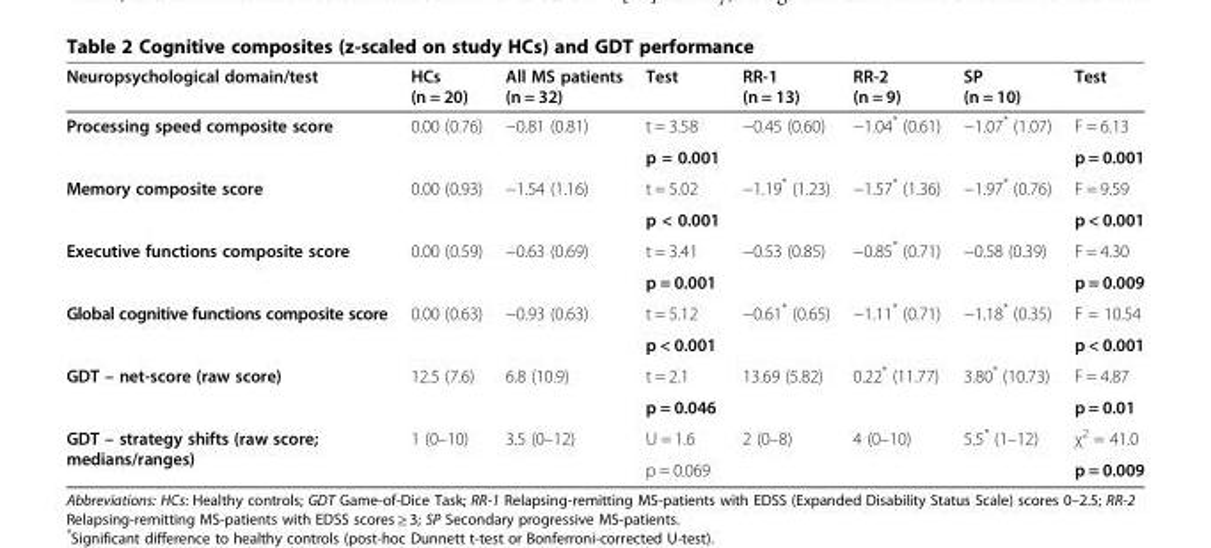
<table><thead><tr><td>Neuropsychological domain/test</td><td>HCs (n = 20)</td><td>All MS patients (n = 32)</td><td>Test</td><td>RR-1 (n = 13)</td><td>RR-2 (n = 9)</td><td>SP (n = 10)</td><td>Test</td></tr></thead><tbody><tr><td rowspan="2">Processing speed composite score</td><td rowspan="2">0.00 (0.76)</td><td rowspan="2">−0.81 (0.81)</td><td>t = 3.58</td><td rowspan="2">−0.45 (0.60)</td><td rowspan="2">−1.04* (0.61)</td><td rowspan="2">−1.07* (1.07)</td><td>F = 6.13</td></tr><tr><td>p = 0.001</td><td>p = 0.001</td></tr><tr><td rowspan="2">Memory composite score</td><td rowspan="2">0.00 (0.93)</td><td rowspan="2">−1.54 (1.16)</td><td>t = 5.02</td><td rowspan="2">−1.19* (1.23)</td><td rowspan="2">−1.57* (1.36)</td><td rowspan="2">−1.97* (0.76)</td><td>F = 9.59</td></tr><tr><td>p &lt; 0.001</td><td>p &lt; 0.001</td></tr><tr><td rowspan="2">Executive functions composite score</td><td rowspan="2">0.00 (0.59)</td><td rowspan="2">−0.63 (0.69)</td><td>t = 3.41</td><td rowspan="2">−0.53 (0.85)</td><td rowspan="2">−0.85* (0.71)</td><td rowspan="2">−0.58 (0.39)</td><td>F = 4.30</td></tr><tr><td>p = 0.001</td><td>p = 0.009</td></tr><tr><td rowspan="2">Global cognitive functions composite score</td><td rowspan="2">0.00 (0.63)</td><td rowspan="2">−0.93 (0.63)</td><td>t = 5.12</td><td rowspan="2">−0.61* (0.65)</td><td rowspan="2">−1.11* (0.71)</td><td rowspan="2">−1.18* (0.35)</td><td>F = 10.54</td></tr><tr><td>p &lt; 0.001</td><td>p &lt; 0.001</td></tr><tr><td rowspan="2">GDT – net-score (raw score)</td><td rowspan="2">12.5 (7.6)</td><td rowspan="2">6.8 (10.9)</td><td>t = 2.1</td><td rowspan="2">13.69 (5.82)</td><td rowspan="2">0.22* (11.77)</td><td rowspan="2">3.80* (10.73)</td><td>F = 4.87</td></tr><tr><td>p = 0.046</td><td>p = 0.01</td></tr><tr><td rowspan="2">GDT – strategy shifts (raw score; medians/ranges)</td><td rowspan="2">1 (0–10)</td><td rowspan="2">3.5 (0–12)</td><td>U = 1.6</td><td rowspan="2">2 (0–8)</td><td rowspan="2">4 (0–10)</td><td rowspan="2">5.5* (1–12)</td><td>χ<sup>2</sup> = 41.0</td></tr><tr><td>p = 0.069</td><td>p = 0.009</td></tr></tbody></table>